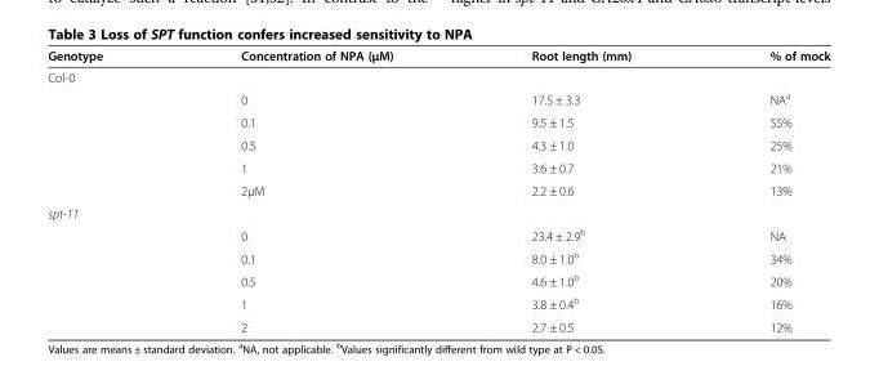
<table><thead><tr><td>Genotype</td><td>Concentration of NPA (μM)</td><td>Root length (mm)</td><td>% of mock</td></tr></thead><tbody><tr><td colspan="4">Col-0</td></tr><tr><td></td><td>0</td><td>17.5 ± 3.3</td><td>NA<sup>a</sup></td></tr><tr><td></td><td>0.1</td><td>9.5 ± 1.5</td><td>55%</td></tr><tr><td></td><td>0.5</td><td>4.3 ± 1.0</td><td>25%</td></tr><tr><td></td><td>1</td><td>3.6 ± 0.7</td><td>21%</td></tr><tr><td></td><td>2μM</td><td>2.2 ± 0.6</td><td>13%</td></tr><tr><td colspan="4">spt-11</td></tr><tr><td></td><td>0</td><td>23.4 ± 2.9<sup>b</sup></td><td>NA</td></tr><tr><td></td><td>0.1</td><td>8.0 ± 1.0<sup>b</sup></td><td>34%</td></tr><tr><td></td><td>0.5</td><td>4.6 ± 1.0<sup>b</sup></td><td>20%</td></tr><tr><td></td><td>1</td><td>3.8 ± 0.4<sup>b</sup></td><td>16%</td></tr><tr><td></td><td>2</td><td>2.7 ± 0.5</td><td>12%</td></tr></tbody></table>